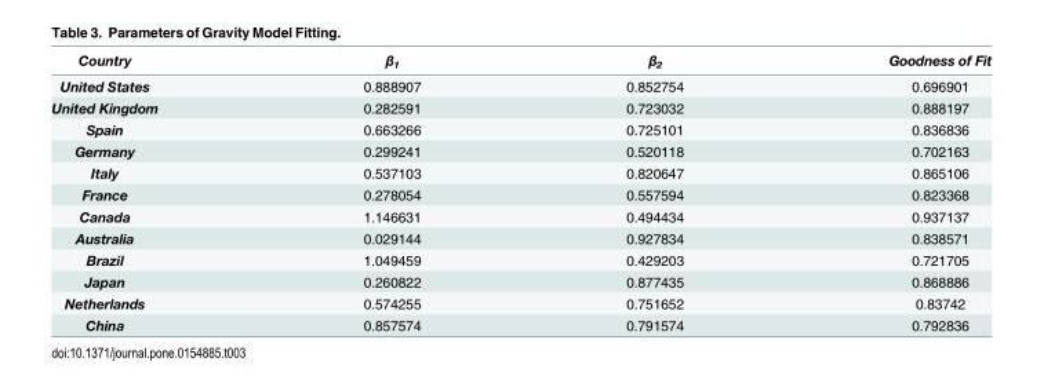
<table><thead><tr><td>Country</td><td>β<sub>1</sub></td><td>β<sub>2</sub></td><td>Goodness of Fit</td></tr></thead><tbody><tr><td>United States</td><td>0.888907</td><td>0.852754</td><td>0.696901</td></tr><tr><td>United Kingdom</td><td>0.282591</td><td>0.723032</td><td>0.888197</td></tr><tr><td>Spain</td><td>0.663266</td><td>0.725101</td><td>0.836836</td></tr><tr><td>Germany</td><td>0.299241</td><td>0.520118</td><td>0.702163</td></tr><tr><td>Italy</td><td>0.537103</td><td>0.820647</td><td>0.865106</td></tr><tr><td>France</td><td>0.278054</td><td>0.557594</td><td>0.823368</td></tr><tr><td>Canada</td><td>1.146631</td><td>0.494434</td><td>0.937137</td></tr><tr><td>Australia</td><td>0.029144</td><td>0.927834</td><td>0.838571</td></tr><tr><td>Brazil</td><td>1.049459</td><td>0.429203</td><td>0.721705</td></tr><tr><td>Japan</td><td>0.260822</td><td>0.877435</td><td>0.868886</td></tr><tr><td>Netherlands</td><td>0.574255</td><td>0.751652</td><td>0.83742</td></tr><tr><td>China</td><td>0.857574</td><td>0.791574</td><td>0.792836</td></tr></tbody></table>